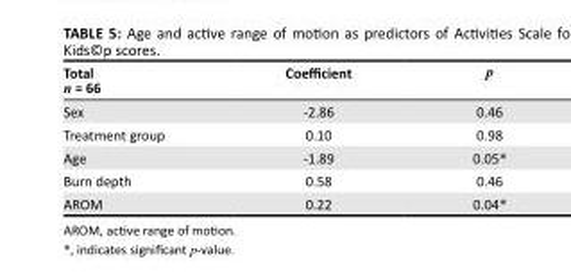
<table><thead><tr><td>Total n = 66</td><td>Coefficient</td><td>p</td></tr></thead><tbody><tr><td>Sex</td><td>-2.86</td><td>0.46</td></tr><tr><td>Treatment group</td><td>0.10</td><td>0.98</td></tr><tr><td>Age</td><td>-1.89</td><td>0.05*</td></tr><tr><td>Burn depth</td><td>0.58</td><td>0.46</td></tr><tr><td>AROM</td><td>0.22</td><td>0.04*</td></tr></tbody></table>